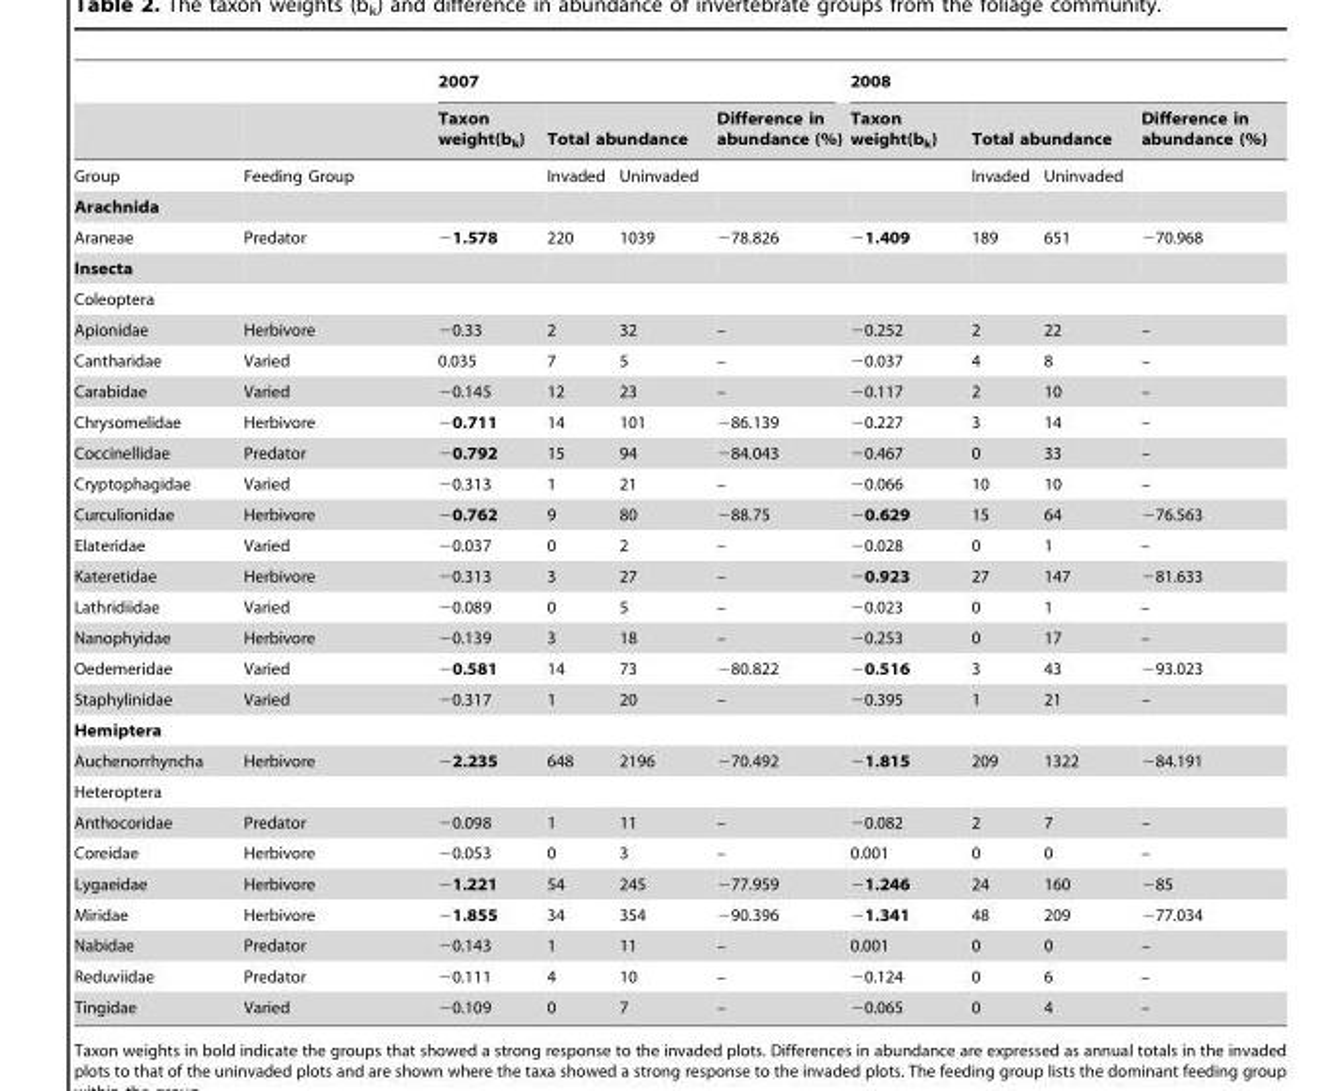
<table><thead><tr><td rowspan="3">Group</td><td rowspan="3">Feeding Group</td><td colspan="4">2007</td><td colspan="4">2008</td></tr><tr><td rowspan="2">Taxon weight(b<sub>k</sub>)</td><td colspan="2">Total abundance</td><td rowspan="2">Difference in abundance (%)</td><td rowspan="2">Taxon weight(b<sub>k</sub>)</td><td colspan="2">Total abundance</td><td rowspan="2">Difference in abundance (%)</td></tr><tr><td>Invaded</td><td>Uninvaded</td><td>Invaded</td><td>Uninvaded</td></tr></thead><tbody><tr><td colspan="10">Arachnida</td></tr><tr><td>Araneae</td><td>Predator</td><td>−1.578</td><td>220</td><td>1039</td><td>−78.826</td><td>−1.409</td><td>189</td><td>651</td><td>−70.968</td></tr><tr><td colspan="10">Insecta</td></tr><tr><td colspan="10">Coleoptera</td></tr><tr><td>Apionidae</td><td>Herbivore</td><td>−0.33</td><td>2</td><td>32</td><td>–</td><td>−0.252</td><td>2</td><td>22</td><td>–</td></tr><tr><td>Cantharidae</td><td>Varied</td><td>0.035</td><td>7</td><td>5</td><td>–</td><td>−0.037</td><td>4</td><td>8</td><td>–</td></tr><tr><td>Carabidae</td><td>Varied</td><td>−0.145</td><td>12</td><td>23</td><td>–</td><td>−0.117</td><td>2</td><td>10</td><td>–</td></tr><tr><td>Chrysomelidae</td><td>Herbivore</td><td>−0.711</td><td>14</td><td>101</td><td>−86.139</td><td>−0.227</td><td>3</td><td>14</td><td>–</td></tr><tr><td>Coccinellidae</td><td>Predator</td><td>−0.792</td><td>15</td><td>94</td><td>−84.043</td><td>−0.467</td><td>0</td><td>33</td><td>–</td></tr><tr><td>Cryptophagidae</td><td>Varied</td><td>−0.313</td><td>1</td><td>21</td><td>–</td><td>−0.066</td><td>10</td><td>10</td><td>–</td></tr><tr><td>Curculionidae</td><td>Herbivore</td><td>−0.762</td><td>9</td><td>80</td><td>−88.75</td><td>−0.629</td><td>15</td><td>64</td><td>−76.563</td></tr><tr><td>Elateridae</td><td>Varied</td><td>−0.037</td><td>0</td><td>2</td><td>–</td><td>−0.028</td><td>0</td><td>1</td><td>–</td></tr><tr><td>Kateretidae</td><td>Herbivore</td><td>−0.313</td><td>3</td><td>27</td><td>–</td><td>−0.923</td><td>27</td><td>147</td><td>−81.633</td></tr><tr><td>Lathridiidae</td><td>Varied</td><td>−0.089</td><td>0</td><td>5</td><td>–</td><td>−0.023</td><td>0</td><td>1</td><td>–</td></tr><tr><td>Nanophyidae</td><td>Herbivore</td><td>−0.139</td><td>3</td><td>18</td><td>–</td><td>−0.253</td><td>0</td><td>17</td><td>–</td></tr><tr><td>Oedemeridae</td><td>Varied</td><td>−0.581</td><td>14</td><td>73</td><td>−80.822</td><td>−0.516</td><td>3</td><td>43</td><td>−93.023</td></tr><tr><td>Staphylinidae</td><td>Varied</td><td>−0.317</td><td>1</td><td>20</td><td>–</td><td>−0.395</td><td>1</td><td>21</td><td>–</td></tr><tr><td colspan="10">Hemiptera</td></tr><tr><td>Auchenorrhyncha</td><td>Herbivore</td><td>−2.235</td><td>648</td><td>2196</td><td>−70.492</td><td>−1.815</td><td>209</td><td>1322</td><td>−84.191</td></tr><tr><td colspan="10">Heteroptera</td></tr><tr><td>Anthocoridae</td><td>Predator</td><td>−0.098</td><td>1</td><td>11</td><td>–</td><td>−0.082</td><td>2</td><td>7</td><td>–</td></tr><tr><td>Coreidae</td><td>Herbivore</td><td>−0.053</td><td>0</td><td>3</td><td>–</td><td>0.001</td><td>0</td><td>0</td><td>–</td></tr><tr><td>Lygaeidae</td><td>Herbivore</td><td>−1.221</td><td>54</td><td>245</td><td>−77.959</td><td>−1.246</td><td>24</td><td>160</td><td>−85</td></tr><tr><td>Miridae</td><td>Herbivore</td><td>−1.855</td><td>34</td><td>354</td><td>−90.396</td><td>−1.341</td><td>48</td><td>209</td><td>−77.034</td></tr><tr><td>Nabidae</td><td>Predator</td><td>−0.143</td><td>1</td><td>11</td><td>–</td><td>0.001</td><td>0</td><td>0</td><td>–</td></tr><tr><td>Reduviidae</td><td>Predator</td><td>−0.111</td><td>4</td><td>10</td><td>–</td><td>−0.124</td><td>0</td><td>6</td><td>–</td></tr><tr><td>Tingidae</td><td>Varied</td><td>−0.109</td><td>0</td><td>7</td><td>–</td><td>−0.065</td><td>0</td><td>4</td><td>–</td></tr></tbody></table>